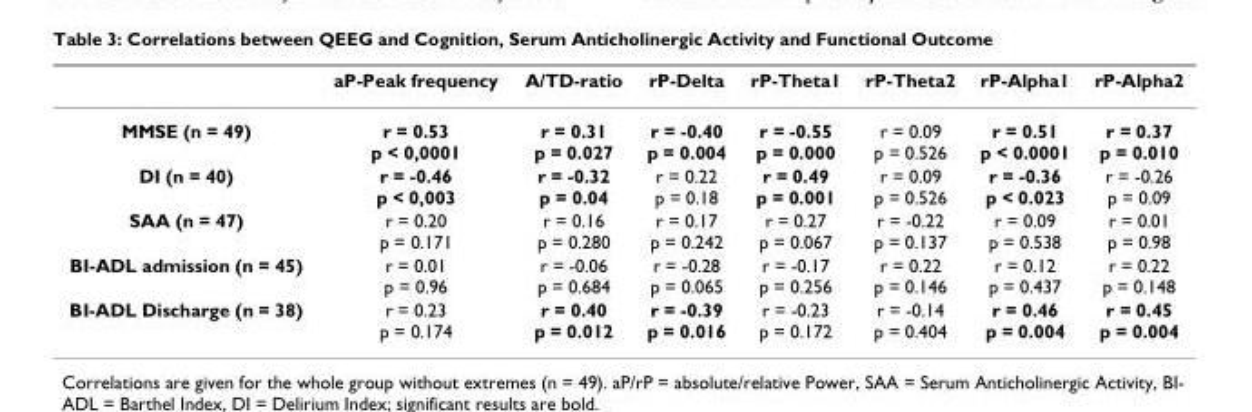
<table><thead><tr><td></td><td>aP-Peak frequency</td><td>A/TD-ratio</td><td>rP-Delta</td><td>rP-Theta1</td><td>rP-Theta2</td><td>rP-Alpha1</td><td>rP-Alpha2</td></tr></thead><tbody><tr><td>MMSE (n = 49)</td><td>r = 0.53 p &lt; 0,0001</td><td>r = 0.31 p = 0.027</td><td>r = -0.40 p = 0.004</td><td>r = -0.55 p = 0.000</td><td>r = 0.09 p = 0.526</td><td>r = 0.51 p &lt; 0.0001</td><td>r = 0.37 p = 0.010</td></tr><tr><td>DI (n = 40)</td><td>r = -0.46 p &lt; 0,003</td><td>r = -0.32 p = 0.04</td><td>r = 0.22 p = 0.18</td><td>r = 0.49 p = 0.001</td><td>r = 0.09 p = 0.526</td><td>r = -0.36 p &lt; 0.023</td><td>r = -0.26 p = 0.09</td></tr><tr><td>SAA (n = 47)</td><td>r = 0.20 p = 0.171</td><td>r = 0.16 p = 0.280</td><td>r = 0.17 p = 0.242</td><td>r = 0.27 p = 0.067</td><td>r = -0.22 p = 0.137</td><td>r = 0.09 p = 0.538</td><td>r = 0.01 p = 0.98</td></tr><tr><td>BI-ADL admission (n = 45)</td><td>r = 0.01 p = 0.96</td><td>r = -0.06 p = 0.684</td><td>r = -0.28 p = 0.065</td><td>r = -0.17 p = 0.256</td><td>r = 0.22 p = 0.146</td><td>r = 0.12 p = 0.437</td><td>r = 0.22 p = 0.148</td></tr><tr><td>BI-ADL Discharge (n = 38)</td><td>r = 0.23 p = 0.174</td><td>r = 0.40 p = 0.012</td><td>r = -0.39 p = 0.016</td><td>r = -0.23 p = 0.172</td><td>r = -0.14 p = 0.404</td><td>r = 0.46 p = 0.004</td><td>r = 0.45 p = 0.004</td></tr></tbody></table>